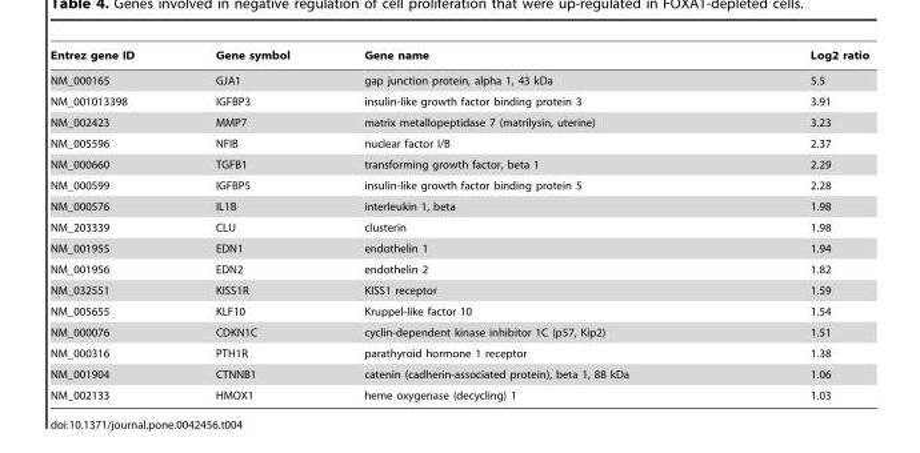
<table><thead><tr><td>Entrez gene ID</td><td>Gene symbol</td><td>Gene name</td><td>Log2 ratio</td></tr></thead><tbody><tr><td>NM_000165</td><td>GJA1</td><td>gap junction protein, alpha 1, 43 kDa</td><td>5.5</td></tr><tr><td>NM_001013398</td><td>IGFBP3</td><td>insulin-like growth factor binding protein 3</td><td>3.91</td></tr><tr><td>NM_002423</td><td>MMP7</td><td>matrix metallopeptidase 7 (matrilysin, uterine)</td><td>3.23</td></tr><tr><td>NM_005596</td><td>NFIB</td><td>nuclear factor I/B</td><td>2.37</td></tr><tr><td>NM_000660</td><td>TGFB1</td><td>transforming growth factor, beta 1</td><td>2.29</td></tr><tr><td>NM_000599</td><td>IGFBP5</td><td>insulin-like growth factor binding protein 5</td><td>2.28</td></tr><tr><td>NM_000576</td><td>IL1B</td><td>interleukin 1, beta</td><td>1.98</td></tr><tr><td>NM_203339</td><td>CLU</td><td>clusterin</td><td>1.98</td></tr><tr><td>NM_001955</td><td>EDN1</td><td>endothelin 1</td><td>1.94</td></tr><tr><td>NM_001956</td><td>EDN2</td><td>endothelin 2</td><td>1.82</td></tr><tr><td>NM_032551</td><td>KISS1R</td><td>KISS1 receptor</td><td>1.59</td></tr><tr><td>NM_005655</td><td>KLF10</td><td>Kruppel-like factor 10</td><td>1.54</td></tr><tr><td>NM_000076</td><td>CDKN1C</td><td>cyclin-dependent kinase inhibitor 1C (p57, Kip2)</td><td>1.51</td></tr><tr><td>NM_000316</td><td>PTH1R</td><td>parathyroid hormone 1 receptor</td><td>1.38</td></tr><tr><td>NM_001904</td><td>CTNNB1</td><td>catenin (cadherin-associated protein), beta 1, 88 kDa</td><td>1.06</td></tr><tr><td>NM_002133</td><td>HMOX1</td><td>heme oxygenase (decycling) 1</td><td>1.03</td></tr></tbody></table>